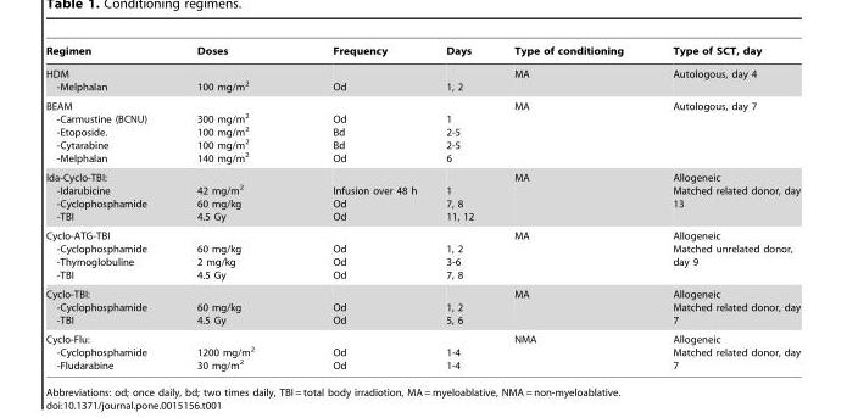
<table><thead><tr><td>Regimen</td><td>Doses</td><td>Frequency</td><td>Days</td><td>Type of conditioning</td><td>Type of SCT, day</td></tr></thead><tbody><tr><td>HDM -Melphalan</td><td>100 mg/m<sup>2</sup></td><td>Od</td><td>1, 2</td><td>MA</td><td>Autologous, day 4</td></tr><tr><td>BEAM -Carmustine (BCNU) -Etoposide. -Cytarabine -Melphalan</td><td>300 mg/m<sup>2</sup> 100 mg/m<sup>2</sup> 100 mg/m<sup>2</sup> 140 mg/m<sup>2</sup></td><td>Od Bd Bd Od</td><td>1 2-5 2-5 6</td><td>MA</td><td>Autologous, day 7</td></tr><tr><td>Ida-Cyclo-TBI: -Idarubicine -Cyclophosphamide -TBI</td><td>42 mg/m<sup>2</sup> 60 mg/kg 4.5 Gy</td><td>Infusion over 48 h Od Od</td><td>1 7, 8 11, 12</td><td>MA</td><td>Allogeneic Matched related donor, day 13</td></tr><tr><td>Cyclo-ATG-TBI -Cyclophosphamide -Thymoglobuline -TBI</td><td>60 mg/kg 2 mg/kg 4.5 Gy</td><td>Od Od Od</td><td>1, 2 3-6 7, 8</td><td>MA</td><td>Allogeneic Matched unrelated donor, day 9</td></tr><tr><td>Cyclo-TBI: -Cyclophosphamide -TBI</td><td>60 mg/kg 4.5 Gy</td><td>Od Od</td><td>1, 2 5, 6</td><td>MA</td><td>Allogeneic Matched related donor, day 7</td></tr><tr><td>Cyclo-Flu: -Cyclophosphamide -Fludarabine</td><td>1200 mg/m<sup>2</sup> 30 mg/m<sup>2</sup></td><td>Od Od</td><td>1-4 1-4</td><td>NMA</td><td>Allogeneic Matched related donor, day 7</td></tr></tbody></table>